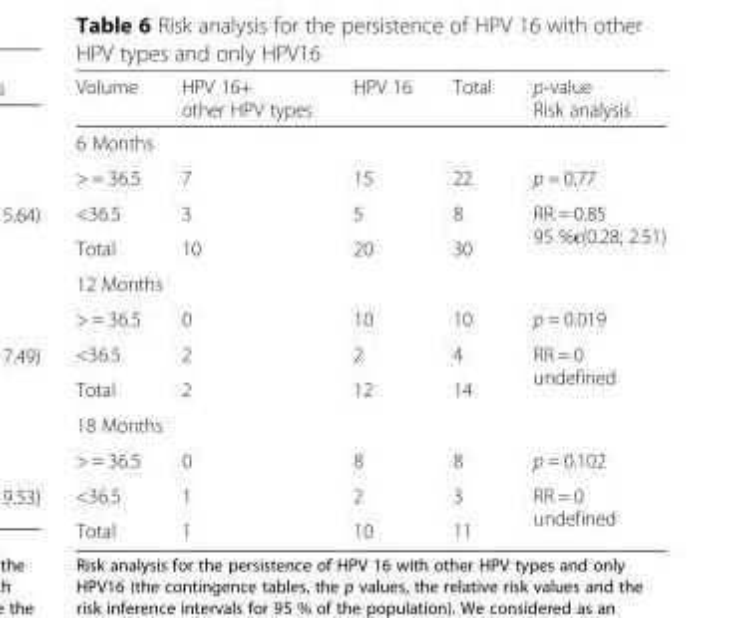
<table><thead><tr><td>Volume</td><td>HPV 16+ other HPV types</td><td>HPV 16</td><td>Total</td><td>p-value Risk analysis</td></tr></thead><tbody><tr><td colspan="5">6 Months</td></tr><tr><td>&gt; = 36.5</td><td>7</td><td>15</td><td>22</td><td>p = 0.77</td></tr><tr><td>&lt;36.5</td><td>3</td><td>5</td><td>8</td><td rowspan="2">RR = 0.85 95 %ϵ(0.28; 2.51)</td></tr><tr><td>Total</td><td>10</td><td>20</td><td>30</td></tr><tr><td colspan="5">12 Months</td></tr><tr><td>&gt; = 36.5</td><td>0</td><td>10</td><td>10</td><td>p = 0.019</td></tr><tr><td>&lt;36.5</td><td>2</td><td>2</td><td>4</td><td rowspan="2">RR = 0 undefined</td></tr><tr><td>Total</td><td>2</td><td>12</td><td>14</td></tr><tr><td colspan="5">18 Months</td></tr><tr><td>&gt; = 36.5</td><td>0</td><td>8</td><td>8</td><td>p = 0.102</td></tr><tr><td>&lt;36.5</td><td>1</td><td>2</td><td>3</td><td rowspan="2">RR = 0 undefined</td></tr><tr><td>Total</td><td>1</td><td>10</td><td>11</td></tr></tbody></table>